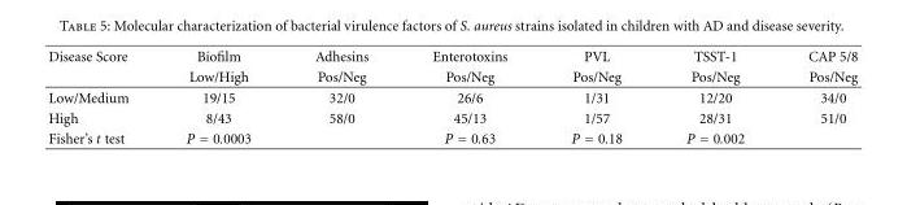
<table><thead><tr><td rowspan="2">Disease Score</td><td rowspan="2">Biofilm Low/High</td><td rowspan="2">Adhesins Pos/Neg</td><td rowspan="2">Enterotoxins Pos/Neg</td><td rowspan="2">PVL Pos/Neg</td><td rowspan="2">TSST-1 Pos/Neg</td><td rowspan="2">CAP 5/8 Pos/Neg</td></tr><tr></tr></thead><tbody><tr><td>Low/Medium</td><td>19/15</td><td>32/0</td><td>26/6</td><td>1/31</td><td>12/20</td><td>34/0</td></tr><tr><td>High</td><td>8/43</td><td>58/0</td><td>45/13</td><td>1/57</td><td>28/31</td><td>51/0</td></tr><tr><td>Fisher’s t test</td><td>P = 0.0003</td><td></td><td>P = 0.63</td><td>P = 0.18</td><td>P = 0.002</td><td></td></tr></tbody></table>